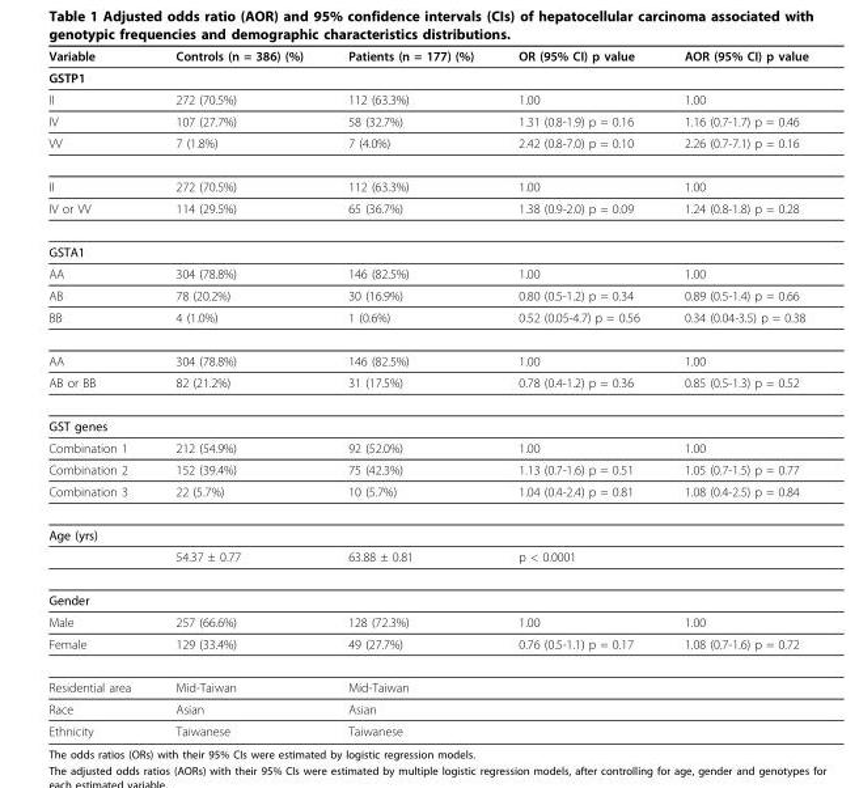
<table><thead><tr><td>Variable</td><td>Controls (n = 386) (%)</td><td>Patients (n = 177) (%)</td><td>OR (95% CI) p value</td><td>AOR (95% CI) p value</td></tr></thead><tbody><tr><td colspan="5">GSTP1</td></tr><tr><td>II</td><td>272 (70.5%)</td><td>112 (63.3%)</td><td>1.00</td><td>1.00</td></tr><tr><td>IV</td><td>107 (27.7%)</td><td>58 (32.7%)</td><td>1.31 (0.8-1.9) p = 0.16</td><td>1.16 (0.7-1.7) p = 0.46</td></tr><tr><td>VV</td><td>7 (1.8%)</td><td>7 (4.0%)</td><td>2.42 (0.8-7.0) p = 0.10</td><td>2.26 (0.7-7.1) p = 0.16</td></tr><tr><td>II</td><td>272 (70.5%)</td><td>112 (63.3%)</td><td>1.00</td><td>1.00</td></tr><tr><td>IV or VV</td><td>114 (29.5%)</td><td>65 (36.7%)</td><td>1.38 (0.9-2.0) p = 0.09</td><td>1.24 (0.8-1.8) p = 0.28</td></tr><tr><td colspan="5">GSTA1</td></tr><tr><td>AA</td><td>304 (78.8%)</td><td>146 (82.5%)</td><td>1.00</td><td>1.00</td></tr><tr><td>AB</td><td>78 (20.2%)</td><td>30 (16.9%)</td><td>0.80 (0.5-1.2) p = 0.34</td><td>0.89 (0.5-1.4) p = 0.66</td></tr><tr><td>BB</td><td>4 (1.0%)</td><td>1 (0.6%)</td><td>0.52 (0.05-4.7) p = 0.56</td><td>0.34 (0.04-3.5) p = 0.38</td></tr><tr><td>AA</td><td>304 (78.8%)</td><td>146 (82.5%)</td><td>1.00</td><td>1.00</td></tr><tr><td>AB or BB</td><td>82 (21.2%)</td><td>31 (17.5%)</td><td>0.78 (0.4-1.2) p = 0.36</td><td>0.85 (0.5-1.3) p = 0.52</td></tr><tr><td colspan="5">GST genes</td></tr><tr><td>Combination 1</td><td>212 (54.9%)</td><td>92 (52.0%)</td><td>1.00</td><td>1.00</td></tr><tr><td>Combination 2</td><td>152 (39.4%)</td><td>75 (42.3%)</td><td>1.13 (0.7-1.6) p = 0.51</td><td>1.05 (0.7-1.5) p = 0.77</td></tr><tr><td>Combination 3</td><td>22 (5.7%)</td><td>10 (5.7%)</td><td>1.04 (0.4-2.4) p = 0.81</td><td>1.08 (0.4-2.5) p = 0.84</td></tr><tr><td colspan="5">Age (yrs)</td></tr><tr><td></td><td>54.37 ± 0.77</td><td>63.88 ± 0.81</td><td>p &lt; 0.0001</td><td></td></tr><tr><td colspan="5">Gender</td></tr><tr><td>Male</td><td>257 (66.6%)</td><td>128 (72.3%)</td><td>1.00</td><td>1.00</td></tr><tr><td>Female</td><td>129 (33.4%)</td><td>49 (27.7%)</td><td>0.76 (0.5-1.1) p = 0.17</td><td>1.08 (0.7-1.6) p = 0.72</td></tr><tr><td>Residential area</td><td>Mid-Taiwan</td><td>Mid-Taiwan</td><td></td><td></td></tr><tr><td>Race</td><td>Asian</td><td>Asian</td><td></td><td></td></tr><tr><td>Ethnicity</td><td>Taiwanese</td><td>Taiwanese</td><td></td><td></td></tr></tbody></table>